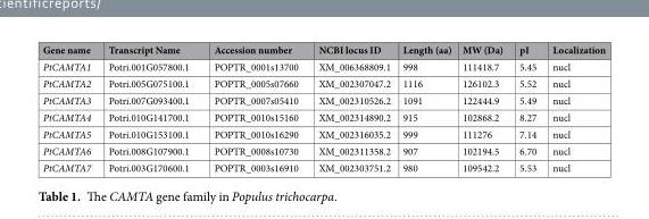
<table><thead><tr><td>Gene name</td><td>Transcript Name</td><td>Accession number</td><td>NCBI locus ID</td><td>Length (aa)</td><td>MW (Da)</td><td>pI</td><td>Localization</td></tr></thead><tbody><tr><td>PtCAMTA1</td><td>Potri.001G057800.1</td><td>POPTR_0001s13700</td><td>XM_006368809.1</td><td>998</td><td>111418.7</td><td>5.45</td><td>nucl</td></tr><tr><td>PtCAMTA2</td><td>Potri.005G075100.1</td><td>POPTR_0005s07660</td><td>XM_002307047.2</td><td>1116</td><td>126102.3</td><td>5.52</td><td>nucl</td></tr><tr><td>PtCAMTA3</td><td>Potri.007G093400.1</td><td>POPTR_0007s05410</td><td>XM_002310526.2</td><td>1091</td><td>122444.9</td><td>5.49</td><td>nucl</td></tr><tr><td>PtCAMTA4</td><td>Potri.010G141700.1</td><td>POPTR_0010s15160</td><td>XM_002314890.2</td><td>915</td><td>102868.2</td><td>8.27</td><td>nucl</td></tr><tr><td>PtCAMTA5</td><td>Potri.010G153100.1</td><td>POPTR_0010s16290</td><td>XM_002316035.2</td><td>999</td><td>111276</td><td>7.14</td><td>nucl</td></tr><tr><td>PtCAMTA6</td><td>Potri.008G107900.1</td><td>POPTR_0008s10730</td><td>XM_002311358.2</td><td>907</td><td>102194.5</td><td>6.70</td><td>nucl</td></tr><tr><td>PtCAMTA7</td><td>Potri.003G170600.1</td><td>POPTR_0003s16910</td><td>XM_002303751.2</td><td>980</td><td>109542.2</td><td>5.53</td><td>nucl</td></tr></tbody></table>